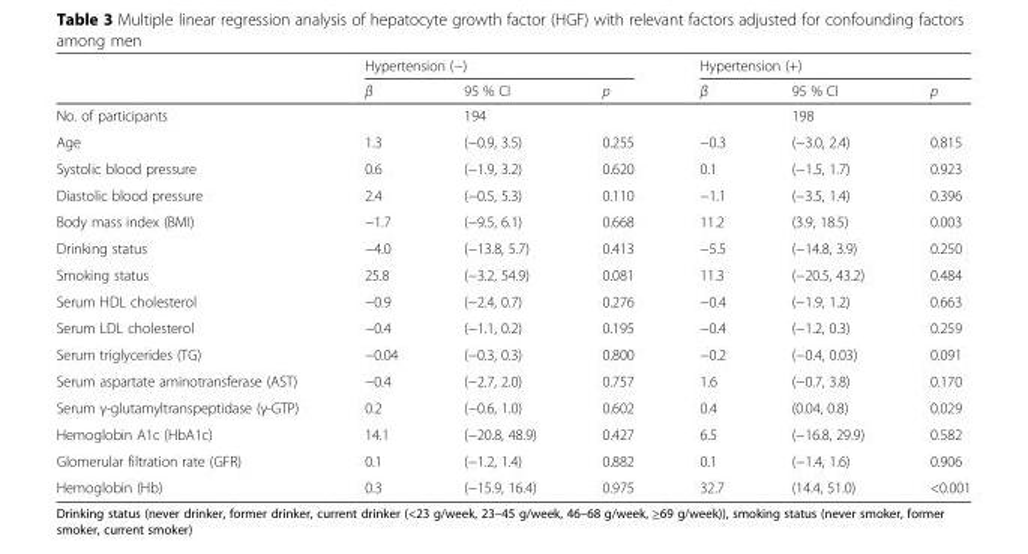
<table><thead><tr><td rowspan="2"></td><td colspan="3">Hypertension (−)</td><td colspan="3">Hypertension (+)</td></tr><tr><td>β</td><td>95 % CI</td><td>p</td><td>β</td><td>95 % CI</td><td>p</td></tr></thead><tbody><tr><td>No. of participants</td><td></td><td>194</td><td></td><td></td><td>198</td><td></td></tr><tr><td>Age</td><td>1.3</td><td>(−0.9, 3.5)</td><td>0.255</td><td>−0.3</td><td>(−3.0, 2.4)</td><td>0.815</td></tr><tr><td>Systolic blood pressure</td><td>0.6</td><td>(−1.9, 3.2)</td><td>0.620</td><td>0.1</td><td>(−1.5, 1.7)</td><td>0.923</td></tr><tr><td>Diastolic blood pressure</td><td>2.4</td><td>(−0.5, 5.3)</td><td>0.110</td><td>−1.1</td><td>(−3.5, 1.4)</td><td>0.396</td></tr><tr><td>Body mass index (BMI)</td><td>−1.7</td><td>(−9.5, 6.1)</td><td>0.668</td><td>11.2</td><td>(3.9, 18.5)</td><td>0.003</td></tr><tr><td>Drinking status</td><td>−4.0</td><td>(−13.8, 5.7)</td><td>0.413</td><td>−5.5</td><td>(−14.8, 3.9)</td><td>0.250</td></tr><tr><td>Smoking status</td><td>25.8</td><td>(−3.2, 54.9)</td><td>0.081</td><td>11.3</td><td>(−20.5, 43.2)</td><td>0.484</td></tr><tr><td>Serum HDL cholesterol</td><td>−0.9</td><td>(−2.4, 0.7)</td><td>0.276</td><td>−0.4</td><td>(−1.9, 1.2)</td><td>0.663</td></tr><tr><td>Serum LDL cholesterol</td><td>−0.4</td><td>(−1.1, 0.2)</td><td>0.195</td><td>−0.4</td><td>(−1.2, 0.3)</td><td>0.259</td></tr><tr><td>Serum triglycerides (TG)</td><td>−0.04</td><td>(−0.3, 0.3)</td><td>0.800</td><td>−0.2</td><td>(−0.4, 0.03)</td><td>0.091</td></tr><tr><td>Serum aspartate aminotransferase (AST)</td><td>−0.4</td><td>(−2.7, 2.0)</td><td>0.757</td><td>1.6</td><td>(−0.7, 3.8)</td><td>0.170</td></tr><tr><td>Serum γ-glutamyltranspeptidase (γ-GTP)</td><td>0.2</td><td>(−0.6, 1.0)</td><td>0.602</td><td>0.4</td><td>(0.04, 0.8)</td><td>0.029</td></tr><tr><td>Hemoglobin A1c (HbA1c)</td><td>14.1</td><td>(−20.8, 48.9)</td><td>0.427</td><td>6.5</td><td>(−16.8, 29.9)</td><td>0.582</td></tr><tr><td>Glomerular filtration rate (GFR)</td><td>0.1</td><td>(−1.2, 1.4)</td><td>0.882</td><td>0.1</td><td>(−1.4, 1.6)</td><td>0.906</td></tr><tr><td>Hemoglobin (Hb)</td><td>0.3</td><td>(−15.9, 16.4)</td><td>0.975</td><td>32.7</td><td>(14.4, 51.0)</td><td>&lt;0.001</td></tr></tbody></table>